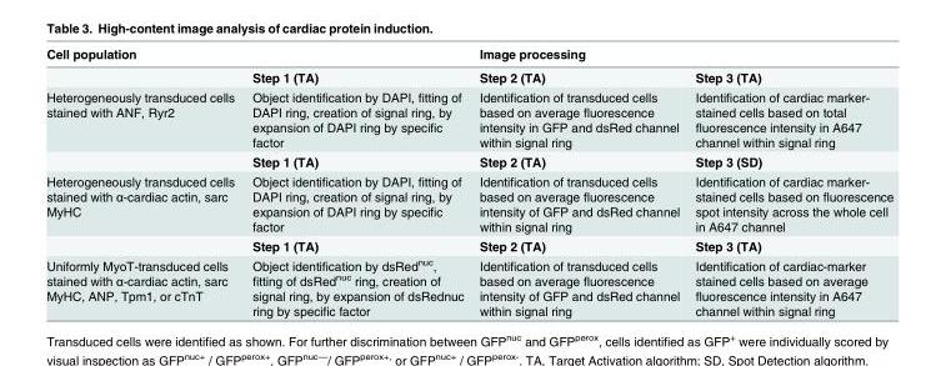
<table><thead><tr><td>Cell population</td><td></td><td>Image processing</td><td></td></tr></thead><tbody><tr><td></td><td>Step 1 (TA)</td><td>Step 2 (TA)</td><td>Step 3 (TA)</td></tr><tr><td rowspan="2">Heterogeneously transduced cells stained with ANF, Ryr2</td><td>Object identification by DAPI, fitting of DAPI ring, creation of signal ring, by expansion of DAPI ring by specific factor</td><td>Identification of transduced cells based on average fluorescence intensity in GFP and dsRed channel within signal ring</td><td>Identification of cardiac marker- stained cells based on total fluorescence intensity in A647 channel within signal ring</td></tr><tr><td>Step 1 (TA)</td><td>Step 2 (TA)</td><td>Step 3 (SD)</td></tr><tr><td rowspan="2">Heterogeneously transduced cells stained with α-cardiac actin, sarc MyHC</td><td>Object identification by DAPI, fitting of DAPI ring, creation of signal ring, by expansion of DAPI ring by specific factor</td><td>Identification of transduced cells based on average fluorescence intensity of GFP and dsRed channel within signal ring</td><td>Identification of cardiac marker- stained cells based on fluorescence spot intensity across the whole cell in A647 channel</td></tr><tr><td>Step 1 (TA)</td><td>Step 2 (TA)</td><td>Step 3 (TA)</td></tr><tr><td>Uniformly MyoT-transduced cells stained with α-cardiac actin, sarc MyHC, ANP, Tpm1, or cTnT</td><td>Object identification by dsRed<sup>nuc</sup>, fitting of dsRed<sup>nuc</sup> ring, creation of signal ring, by expansion of dsRednuc ring by specific factor</td><td>Identification of transduced cells based on average fluorescence intensity of GFP and dsRed channel within signal ring</td><td>Identification of cardiac-marker stained cells based on average fluorescence intensity in A647 channel within signal ring</td></tr></tbody></table>